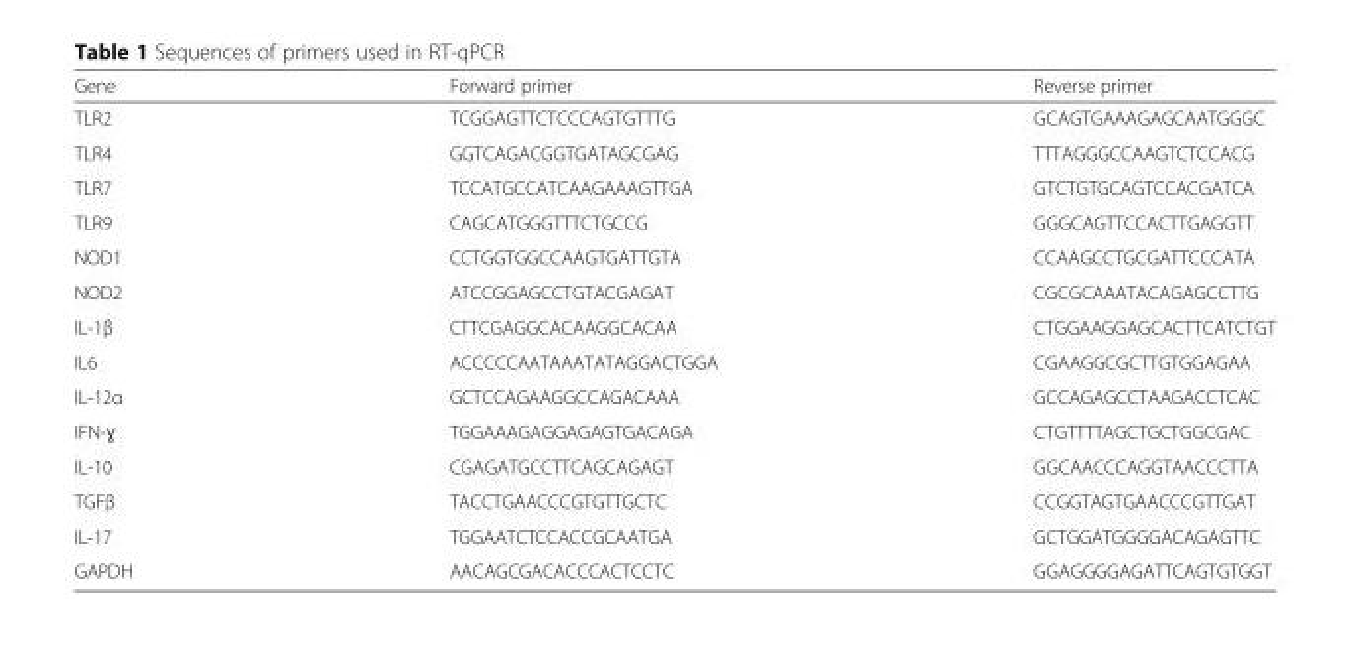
<table><thead><tr><td>Gene</td><td>Forward primer</td><td>Reverse primer</td></tr></thead><tbody><tr><td>TLR2</td><td>TCGGAGTTCTCCCAGTGTTTG</td><td>GCAGTGAAAGAGCAATGGGC</td></tr><tr><td>TLR4</td><td>GGTCAGACGGTGATAGCGAG</td><td>TTTAGGGCCAAGTCTCCACG</td></tr><tr><td>TLR7</td><td>TCCATGCCATCAAGAAAGTTGA</td><td>GTCTGTGCAGTCCACGATCA</td></tr><tr><td>TLR9</td><td>CAGCATGGGTTTCTGCCG</td><td>GGGCAGTTCCACTTGAGGTT</td></tr><tr><td>NOD1</td><td>CCTGGTGGCCAAGTGATTGTA</td><td>CCAAGCCTGCGATTCCCATA</td></tr><tr><td>NOD2</td><td>ATCCGGAGCCTGTACGAGAT</td><td>CGCGCAAATACAGAGCCTTG</td></tr><tr><td>IL-1β</td><td>CTTCGAGGCACAAGGCACAA</td><td>CTGGAAGGAGCACTTCATCTGT</td></tr><tr><td>IL6</td><td>ACCCCCAATAAATATAGGACTGGA</td><td>CGAAGGCGCTTGTGGAGAA</td></tr><tr><td>IL-12α</td><td>GCTCCAGAAGGCCAGACAAA</td><td>GCCAGAGCCTAAGACCTCAC</td></tr><tr><td>IFN-ɣ</td><td>TGGAAAGAGGAGAGTGACAGA</td><td>CTGTTTTAGCTGCTGGCGAC</td></tr><tr><td>IL-10</td><td>CGAGATGCCTTCAGCAGAGT</td><td>GGCAACCCAGGTAACCCTTA</td></tr><tr><td>TGFβ</td><td>TACCTGAACCCGTGTTGCTC</td><td>CCGGTAGTGAACCCGTTGAT</td></tr><tr><td>IL-17</td><td>TGGAATCTCCACCGCAATGA</td><td>GCTGGATGGGGACAGAGTTC</td></tr><tr><td>GAPDH</td><td>AACAGCGACACCCACTCCTC</td><td>GGAGGGGAGATTCAGTGTGGT</td></tr></tbody></table>